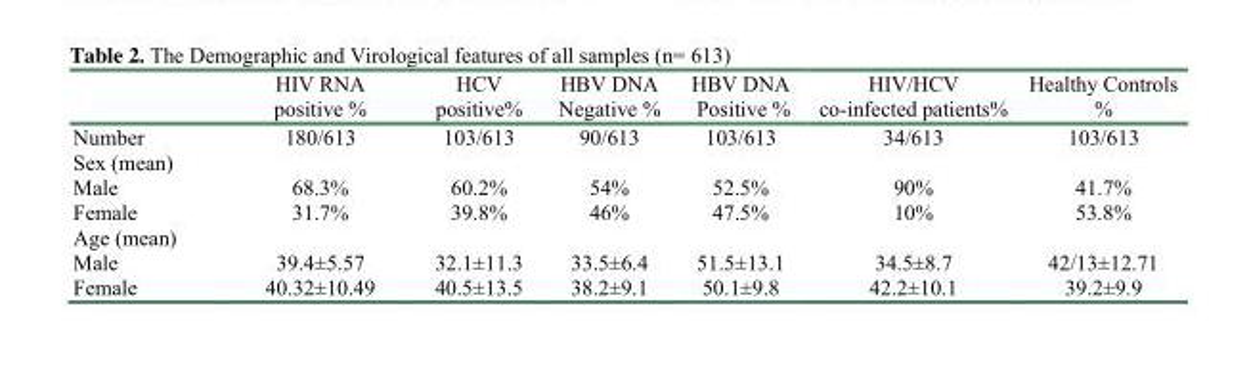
<table><thead><tr><td></td><td>HIV RNA positive %</td><td>HCV positive%</td><td>HBV DNA Negative %</td><td>HBV DNA Positive %</td><td>HIV/HCV co-infected patients%</td><td>Healthy Controls %</td></tr></thead><tbody><tr><td>Number</td><td>180/613</td><td>103/613</td><td>90/613</td><td>103/613</td><td>34/613</td><td>103/613</td></tr><tr><td>Sex (mean) Male Female</td><td>68.3% 31.7%</td><td>60.2% 39.8%</td><td>54% 46%</td><td>52.5% 47.5%</td><td>90% 10%</td><td>41.7% 53.8%</td></tr><tr><td>Age (mean) Male Female</td><td>39.4±5.57 40.32±10.49</td><td>32.1±11.3 40.5±13.5</td><td>33.5±6.4 38.2±9.1</td><td>51.5±13.1 50.1±9.8</td><td>34.5±8.7 42.2±10.1</td><td>42/13±12.71 39.2±9.9</td></tr></tbody></table>